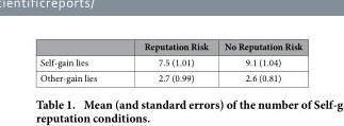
<table><thead><tr><td></td><td>Reputation Risk</td><td>No Reputation Risk</td></tr></thead><tbody><tr><td>Self-gain lies</td><td>7.5 (1.01)</td><td>9.1 (1.04)</td></tr><tr><td>Other-gain lies</td><td>2.7 (0.99)</td><td>2.6 (0.81)</td></tr></tbody></table>